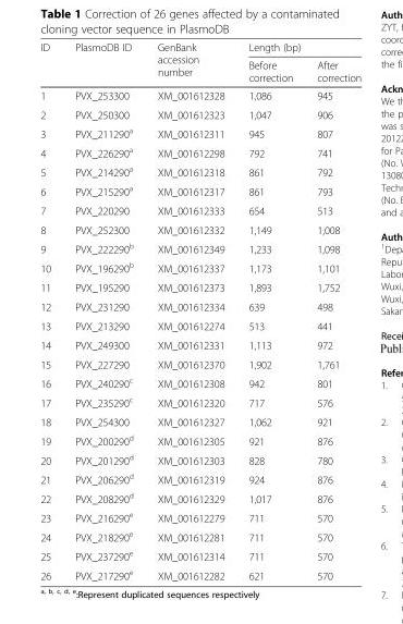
<table><thead><tr><td rowspan="2">ID</td><td rowspan="2">PlasmoDB ID</td><td rowspan="2">GenBank accession number</td><td colspan="2">Length (bp)</td></tr><tr><td>Before correction</td><td>After correction</td></tr></thead><tbody><tr><td>1</td><td>PVX_253300</td><td>XM_001612328</td><td>1,086</td><td>945</td></tr><tr><td>2</td><td>PVX_250300</td><td>XM_001612323</td><td>1,047</td><td>906</td></tr><tr><td>3</td><td>PVX_211290<sup>a</sup></td><td>XM_001612311</td><td>945</td><td>807</td></tr><tr><td>4</td><td>PVX_226290<sup>a</sup></td><td>XM_001612298</td><td>792</td><td>741</td></tr><tr><td>5</td><td>PVX_214290<sup>a</sup></td><td>XM_001612318</td><td>861</td><td>792</td></tr><tr><td>6</td><td>PVX_215290<sup>a</sup></td><td>XM_001612317</td><td>861</td><td>793</td></tr><tr><td>7</td><td>PVX_220290</td><td>XM_001612333</td><td>654</td><td>513</td></tr><tr><td>8</td><td>PVX_252300</td><td>XM_001612332</td><td>1,149</td><td>1,008</td></tr><tr><td>9</td><td>PVX_222290<sup>b</sup></td><td>XM_001612349</td><td>1,233</td><td>1,098</td></tr><tr><td>10</td><td>PVX_196290<sup>b</sup></td><td>XM_001612337</td><td>1,173</td><td>1,101</td></tr><tr><td>11</td><td>PVX_195290</td><td>XM_001612373</td><td>1,893</td><td>1,752</td></tr><tr><td>12</td><td>PVX_231290</td><td>XM_001612334</td><td>639</td><td>498</td></tr><tr><td>13</td><td>PVX_213290</td><td>XM_001612274</td><td>513</td><td>441</td></tr><tr><td>14</td><td>PVX_249300</td><td>XM_001612331</td><td>1,113</td><td>972</td></tr><tr><td>15</td><td>PVX_227290</td><td>XM_001612370</td><td>1,902</td><td>1,761</td></tr><tr><td>16</td><td>PVX_240290<sup>c</sup></td><td>XM_001612308</td><td>942</td><td>801</td></tr><tr><td>17</td><td>PVX_235290<sup>c</sup></td><td>XM_001612320</td><td>717</td><td>576</td></tr><tr><td>18</td><td>PVX_254300</td><td>XM_001612327</td><td>1,062</td><td>921</td></tr><tr><td>19</td><td>PVX_200290<sup>d</sup></td><td>XM_001612305</td><td>921</td><td>876</td></tr><tr><td>20</td><td>PVX_201290<sup>d</sup></td><td>XM_001612303</td><td>828</td><td>780</td></tr><tr><td>21</td><td>PVX_206290<sup>d</sup></td><td>XM_001612319</td><td>924</td><td>876</td></tr><tr><td>22</td><td>PVX_208290<sup>d</sup></td><td>XM_001612329</td><td>1,017</td><td>876</td></tr><tr><td>23</td><td>PVX_216290<sup>e</sup></td><td>XM_001612279</td><td>711</td><td>570</td></tr><tr><td>24</td><td>PVX_218290<sup>e</sup></td><td>XM_001612281</td><td>711</td><td>570</td></tr><tr><td>25</td><td>PVX_237290<sup>e</sup></td><td>XM_001612314</td><td>711</td><td>570</td></tr><tr><td>26</td><td>PVX_217290<sup>e</sup></td><td>XM_001612282</td><td>621</td><td>570</td></tr></tbody></table>